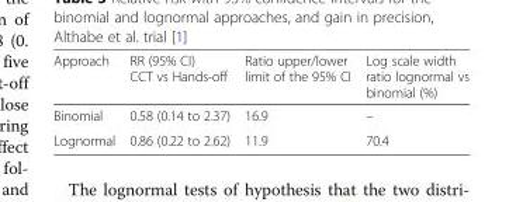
<table><thead><tr><td>Approach</td><td>RR (95% CI) CCT vs Hands-off</td><td>Ratio upper/lower limit of the 95% CI</td><td>Log scale width ratio lognormal vs binomial (%)</td></tr></thead><tbody><tr><td>Binomial</td><td>0.58 (0.14 to 2.37)</td><td>16.9</td><td>–</td></tr><tr><td>Lognormal</td><td>0.86 (0.22 to 2.62)</td><td>11.9</td><td>70.4</td></tr></tbody></table>